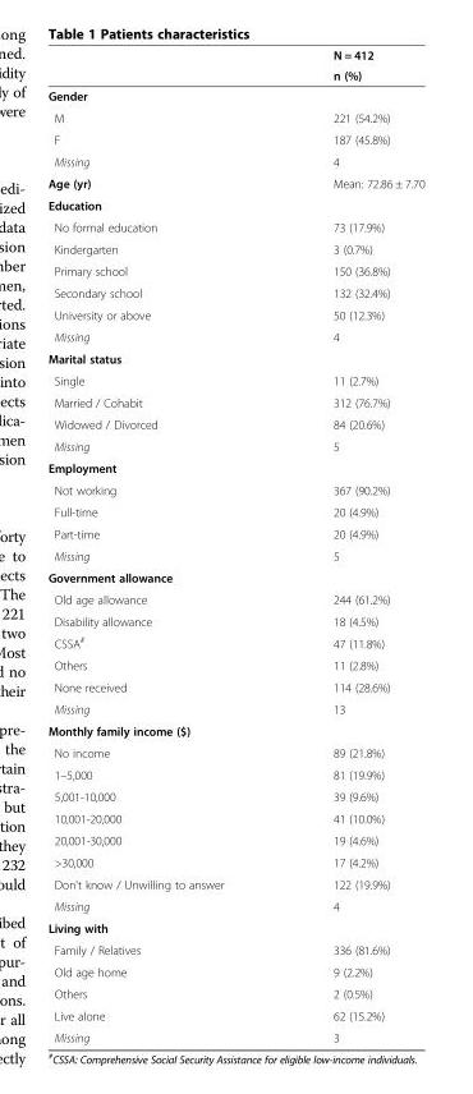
<table><thead><tr><td rowspan="2"></td><td rowspan="2">N = 412 n (%)</td></tr><tr></tr></thead><tbody><tr><td colspan="2">Gender</td></tr><tr><td>M</td><td>221 (54.2%)</td></tr><tr><td>F</td><td>187 (45.8%)</td></tr><tr><td>Missing</td><td>4</td></tr><tr><td>Age (yr)</td><td>Mean: 72.86 ± 7.70</td></tr><tr><td colspan="2">Education</td></tr><tr><td>No formal education</td><td>73 (17.9%)</td></tr><tr><td>Kindergarten</td><td>3 (0.7%)</td></tr><tr><td>Primary school</td><td>150 (36.8%)</td></tr><tr><td>Secondary school</td><td>132 (32.4%)</td></tr><tr><td>University or above</td><td>50 (12.3%)</td></tr><tr><td>Missing</td><td>4</td></tr><tr><td colspan="2">Marital status</td></tr><tr><td>Single</td><td>11 (2.7%)</td></tr><tr><td>Married / Cohabit</td><td>312 (76.7%)</td></tr><tr><td>Widowed / Divorced</td><td>84 (20.6%)</td></tr><tr><td>Missing</td><td>5</td></tr><tr><td colspan="2">Employment</td></tr><tr><td>Not working</td><td>367 (90.2%)</td></tr><tr><td>Full-time</td><td>20 (4.9%)</td></tr><tr><td>Part-time</td><td>20 (4.9%)</td></tr><tr><td>Missing</td><td>5</td></tr><tr><td colspan="2">Government allowance</td></tr><tr><td>Old age allowance</td><td>244 (61.2%)</td></tr><tr><td>Disability allowance</td><td>18 (4.5%)</td></tr><tr><td>CSSA<sup>#</sup></td><td>47 (11.8%)</td></tr><tr><td>Others</td><td>11 (2.8%)</td></tr><tr><td>None received</td><td>114 (28.6%)</td></tr><tr><td>Missing</td><td>13</td></tr><tr><td colspan="2">Monthly family income ($)</td></tr><tr><td>No income</td><td>89 (21.8%)</td></tr><tr><td>1–5,000</td><td>81 (19.9%)</td></tr><tr><td>5,001-10,000</td><td>39 (9.6%)</td></tr><tr><td>10,001-20,000</td><td>41 (10.0%)</td></tr><tr><td>20,001-30,000</td><td>19 (4.6%)</td></tr><tr><td>&gt;30,000</td><td>17 (4.2%)</td></tr><tr><td>Don&#x27;t know / Unwilling to answer</td><td>122 (19.9%)</td></tr><tr><td>Missing</td><td>4</td></tr><tr><td colspan="2">Living with</td></tr><tr><td>Family / Relatives</td><td>336 (81.6%)</td></tr><tr><td>Old age home</td><td>9 (2.2%)</td></tr><tr><td>Others</td><td>2 (0.5%)</td></tr><tr><td>Live alone</td><td>62 (15.2%)</td></tr><tr><td>Missing</td><td>3</td></tr></tbody></table>